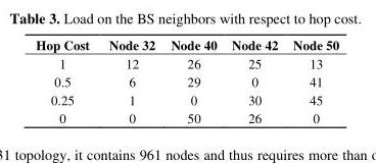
<table><thead><tr><td>Hop Cost</td><td>Node 32</td><td>Node 40</td><td>Node 42</td><td>Node 50</td></tr></thead><tbody><tr><td>1</td><td>12</td><td>26</td><td>25</td><td>13</td></tr><tr><td>0.5</td><td>6</td><td>29</td><td>0</td><td>41</td></tr><tr><td>0.25</td><td>1</td><td>0</td><td>30</td><td>45</td></tr><tr><td>0</td><td>0</td><td>50</td><td>26</td><td>0</td></tr></tbody></table>